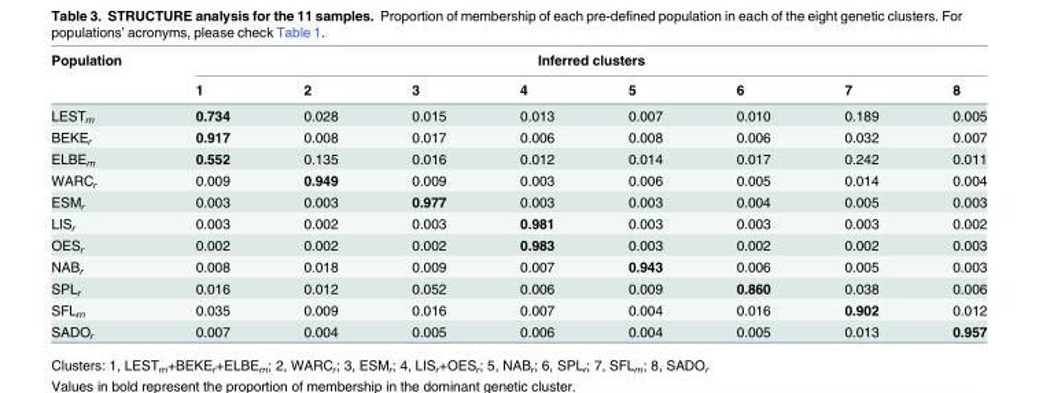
<table><thead><tr><td rowspan="2">Population</td><td colspan="8">Inferred clusters</td></tr><tr><td>1</td><td>2</td><td>3</td><td>4</td><td>5</td><td>6</td><td>7</td><td>8</td></tr></thead><tbody><tr><td>LEST<sub>m</sub></td><td>0.734</td><td>0.028</td><td>0.015</td><td>0.013</td><td>0.007</td><td>0.010</td><td>0.189</td><td>0.005</td></tr><tr><td>BEKE<sub>r</sub></td><td>0.917</td><td>0.008</td><td>0.017</td><td>0.006</td><td>0.008</td><td>0.006</td><td>0.032</td><td>0.007</td></tr><tr><td>ELBE<sub>m</sub></td><td>0.552</td><td>0.135</td><td>0.016</td><td>0.012</td><td>0.014</td><td>0.017</td><td>0.242</td><td>0.011</td></tr><tr><td>WARC<sub>r</sub></td><td>0.009</td><td>0.949</td><td>0.009</td><td>0.003</td><td>0.006</td><td>0.005</td><td>0.014</td><td>0.004</td></tr><tr><td>ESM<sub>r</sub></td><td>0.003</td><td>0.003</td><td>0.977</td><td>0.003</td><td>0.003</td><td>0.004</td><td>0.005</td><td>0.003</td></tr><tr><td>LIS<sub>r</sub></td><td>0.003</td><td>0.002</td><td>0.003</td><td>0.981</td><td>0.003</td><td>0.003</td><td>0.003</td><td>0.002</td></tr><tr><td>OES<sub>r</sub></td><td>0.002</td><td>0.002</td><td>0.002</td><td>0.983</td><td>0.003</td><td>0.002</td><td>0.002</td><td>0.003</td></tr><tr><td>NAB<sub>r</sub></td><td>0.008</td><td>0.018</td><td>0.009</td><td>0.007</td><td>0.943</td><td>0.006</td><td>0.005</td><td>0.003</td></tr><tr><td>SPL<sub>r</sub></td><td>0.016</td><td>0.012</td><td>0.052</td><td>0.006</td><td>0.009</td><td>0.860</td><td>0.038</td><td>0.006</td></tr><tr><td>SFL<sub>m</sub></td><td>0.035</td><td>0.009</td><td>0.016</td><td>0.007</td><td>0.004</td><td>0.016</td><td>0.902</td><td>0.012</td></tr><tr><td>SADO<sub>r</sub></td><td>0.007</td><td>0.004</td><td>0.005</td><td>0.006</td><td>0.004</td><td>0.005</td><td>0.013</td><td>0.957</td></tr></tbody></table>